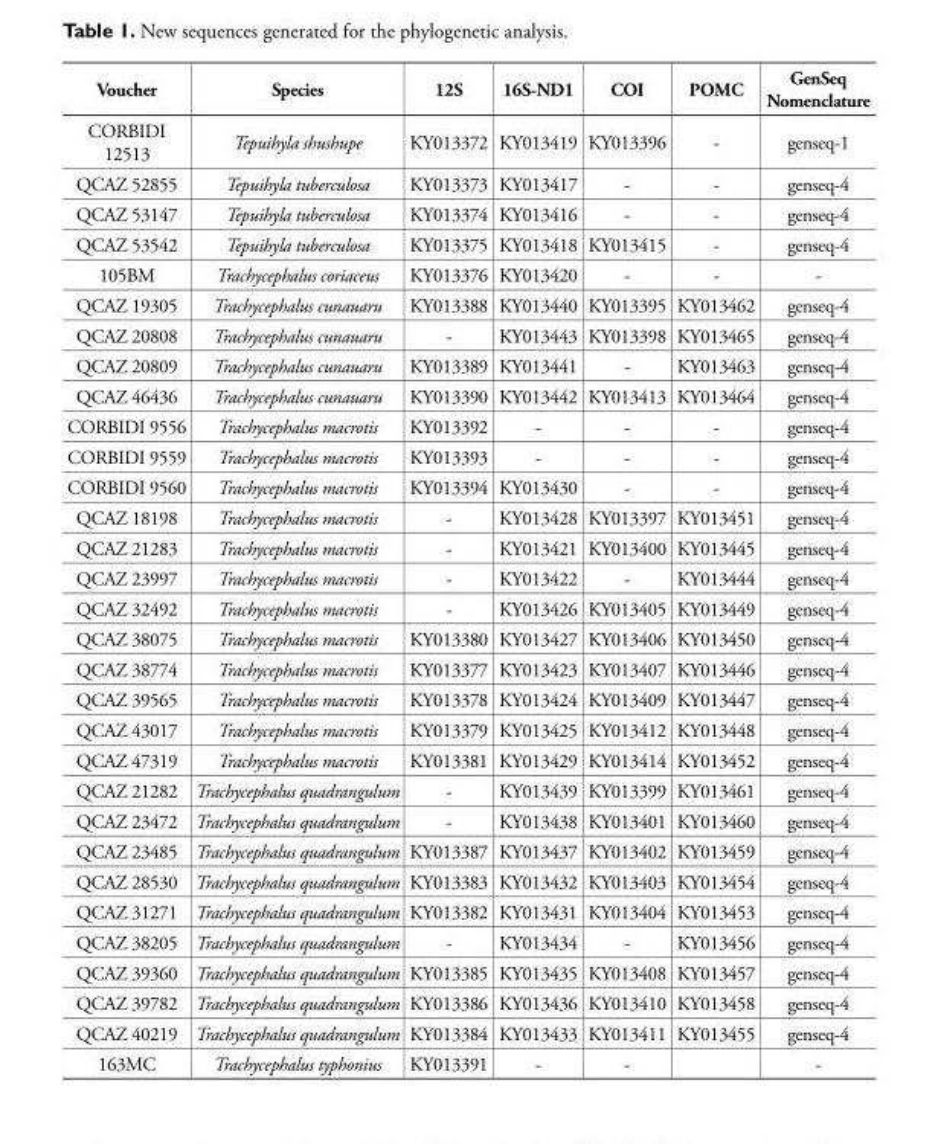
<table><thead><tr><td>Voucher</td><td>Species</td><td>12S</td><td>16S-ND1</td><td>COI</td><td>POMC</td><td>GenSeq Nomenclature</td></tr></thead><tbody><tr><td>CORBIDI 12513</td><td>Tepuihyla shushupe</td><td>KY013372</td><td>KY013419</td><td>KY013396</td><td>-</td><td>genseq-1</td></tr><tr><td>QCAZ 52855</td><td>Tepuihyla tuberculosa</td><td>KY013373</td><td>KY013417</td><td>-</td><td>-</td><td>genseq-4</td></tr><tr><td>QCAZ 53147</td><td>Tepuihyla tuberculosa</td><td>KY013374</td><td>KY013416</td><td>-</td><td>-</td><td>genseq-4</td></tr><tr><td>QCAZ 53542</td><td>Tepuihyla tuberculosa</td><td>KY013375</td><td>KY013418</td><td>KY013415</td><td>-</td><td>genseq-4</td></tr><tr><td>105BM</td><td>Trachycephalus coriaceus</td><td>KY013376</td><td>KY013420</td><td>-</td><td>-</td><td>-</td></tr><tr><td>QCAZ 19305</td><td>Trachycephalus cunauaru</td><td>KY013388</td><td>KY013440</td><td>KY013395</td><td>KY013462</td><td>genseq-4</td></tr><tr><td>QCAZ 20808</td><td>Trachycephalus cunauaru</td><td>-</td><td>KY013443</td><td>KY013398</td><td>KY013465</td><td>genseq-4</td></tr><tr><td>QCAZ 20809</td><td>Trachycephalus cunauaru</td><td>KY013389</td><td>KY013441</td><td>-</td><td>KY013463</td><td>genseq-4</td></tr><tr><td>QCAZ 46436</td><td>Trachycephalus cunauaru</td><td>KY013390</td><td>KY013442</td><td>KY013413</td><td>KY013464</td><td>genseq-4</td></tr><tr><td>CORBIDI 9556</td><td>Trachycephalus macrotis</td><td>KY013392</td><td>-</td><td>-</td><td>-</td><td>genseq-4</td></tr><tr><td>CORBIDI 9559</td><td>Trachycephalus macrotis</td><td>KY013393</td><td>-</td><td>-</td><td>-</td><td>genseq-4</td></tr><tr><td>CORBIDI 9560</td><td>Trachycephalus macrotis</td><td>KY013394</td><td>KY013430</td><td>-</td><td>-</td><td>genseq-4</td></tr><tr><td>QCAZ 18198</td><td>Trachycephalus macrotis</td><td>-</td><td>KY013428</td><td>KY013397</td><td>KY013451</td><td>genseq-4</td></tr><tr><td>QCAZ 21283</td><td>Trachycephalus macrotis</td><td>-</td><td>KY013421</td><td>KY013400</td><td>KY013445</td><td>genseq-4</td></tr><tr><td>QCAZ 23997</td><td>Trachycephalus macrotis</td><td>-</td><td>KY013422</td><td>-</td><td>KY013444</td><td>genseq-4</td></tr><tr><td>QCAZ 32492</td><td>Trachycephalus macrotis</td><td>-</td><td>KY013426</td><td>KY013405</td><td>KY013449</td><td>genseq-4</td></tr><tr><td>QCAZ 38075</td><td>Trachycephalus macrotis</td><td>KY013380</td><td>KY013427</td><td>KY013406</td><td>KY013450</td><td>genseq-4</td></tr><tr><td>QCAZ 38774</td><td>Trachycephalus macrotis</td><td>KY013377</td><td>KY013423</td><td>KY013407</td><td>KY013446</td><td>genseq-4</td></tr><tr><td>QCAZ 39565</td><td>Trachycephalus macrotis</td><td>KY013378</td><td>KY013424</td><td>KY013409</td><td>KY013447</td><td>genseq-4</td></tr><tr><td>QCAZ 43017</td><td>Trachycephalus macrotis</td><td>KY013379</td><td>KY013425</td><td>KY013412</td><td>KY013448</td><td>genseq-4</td></tr><tr><td>QCAZ 47319</td><td>Trachycephalus macrotis</td><td>KY013381</td><td>KY013429</td><td>KY013414</td><td>KY013452</td><td>genseq-4</td></tr><tr><td>QCAZ 21282</td><td>Trachycephalus quadrangulum</td><td>-</td><td>KY013439</td><td>KY013399</td><td>KY013461</td><td>genseq-4</td></tr><tr><td>QCAZ 23472</td><td>Trachycephalus quadrangulum</td><td>-</td><td>KY013438</td><td>KY013401</td><td>KY013460</td><td>genseq-4</td></tr><tr><td>QCAZ 23485</td><td>Trachycephalus quadrangulum</td><td>KY013387</td><td>KY013437</td><td>KY013402</td><td>KY013459</td><td>genseq-4</td></tr><tr><td>QCAZ 28530</td><td>Trachycephalus quadrangulum</td><td>KY013383</td><td>KY013432</td><td>KY013403</td><td>KY013454</td><td>genseq-4</td></tr><tr><td>QCAZ 31271</td><td>Trachycephalus quadrangulum</td><td>KY013382</td><td>KY013431</td><td>KY013404</td><td>KY013453</td><td>genseq-4</td></tr><tr><td>QCAZ 38205</td><td>Trachycephalus quadrangulum</td><td>-</td><td>KY013434</td><td>-</td><td>KY013456</td><td>genseq-4</td></tr><tr><td>QCAZ 39360</td><td>Trachycephalus quadrangulum</td><td>KY013385</td><td>KY013435</td><td>KY013408</td><td>KY013457</td><td>genseq-4</td></tr><tr><td>QCAZ 39782</td><td>Trachycephalus quadrangulum</td><td>KY013386</td><td>KY013436</td><td>KY013410</td><td>KY013458</td><td>genseq-4</td></tr><tr><td>QCAZ 40219</td><td>Trachycephalus quadrangulum</td><td>KY013384</td><td>KY013433</td><td>KY013411</td><td>KY013455</td><td>genseq-4</td></tr><tr><td>163MC</td><td>Trachycephalus typhonius</td><td>KY013391</td><td>-</td><td>-</td><td></td><td>-</td></tr></tbody></table>